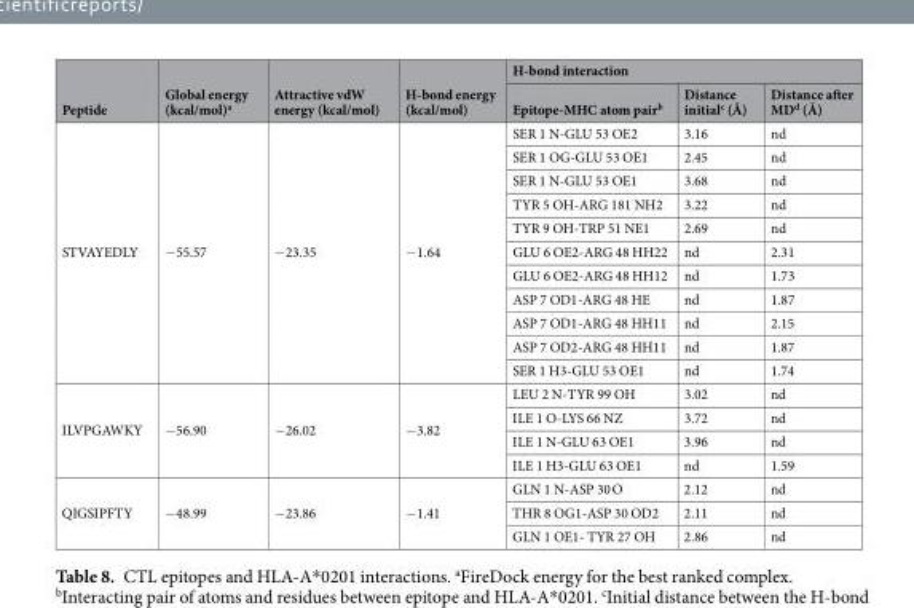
<table><thead><tr><td rowspan="2">Peptide</td><td rowspan="2">Global energy (kcal/mol)<sup>a</sup></td><td rowspan="2">Attractive vdW energy (kcal/mol)</td><td rowspan="2">H-bond energy (kcal/mol)</td><td colspan="3">H-bond interaction</td></tr><tr><td>Epitope-MHC atom pair<sup>b</sup></td><td>Distance initial<sup>c</sup> (Å)</td><td>Distance after MD<sup>d</sup> (Å)</td></tr></thead><tbody><tr><td rowspan="11">STVAYEDLY</td><td rowspan="11">−55.57</td><td rowspan="11">−23.35</td><td rowspan="11">−1.64</td><td>SER 1 N-GLU 53 OE2</td><td>3.16</td><td>nd</td></tr><tr><td>SER 1 OG-GLU 53 OE1</td><td>2.45</td><td>nd</td></tr><tr><td>SER 1 N-GLU 53 OE1</td><td>3.68</td><td>nd</td></tr><tr><td>TYR 5 OH-ARG 181 NH2</td><td>3.22</td><td>nd</td></tr><tr><td>TYR 9 OH-TRP 51 NE1</td><td>2.69</td><td>nd</td></tr><tr><td>GLU 6 OE2-ARG 48 HH22</td><td>nd</td><td>2.31</td></tr><tr><td>GLU 6 OE2-ARG 48 HH12</td><td>nd</td><td>1.73</td></tr><tr><td>ASP 7 OD1-ARG 48 HE</td><td>nd</td><td>1.87</td></tr><tr><td>ASP 7 OD1-ARG 48 HH11</td><td>nd</td><td>2.15</td></tr><tr><td>ASP 7 OD2-ARG 48 HH11</td><td>nd</td><td>1.87</td></tr><tr><td>SER 1 H3-GLU 53 OE1</td><td>nd</td><td>1.74</td></tr><tr><td rowspan="4">ILVPGAWKY</td><td rowspan="4">−56.90</td><td rowspan="4">−26.02</td><td rowspan="4">−3.82</td><td>LEU 2 N-TYR 99 OH</td><td>3.02</td><td>nd</td></tr><tr><td>ILE 1 O-LYS 66 NZ</td><td>3.72</td><td>nd</td></tr><tr><td>ILE 1 N-GLU 63 OE1</td><td>3.96</td><td>nd</td></tr><tr><td>ILE 1 H3-GLU 63 OE1</td><td>nd</td><td>1.59</td></tr><tr><td rowspan="3">QIGSIPFTY</td><td rowspan="3">−48.99</td><td rowspan="3">−23.86</td><td rowspan="3">−1.41</td><td>GLN 1 N-ASP 30 O</td><td>2.12</td><td>nd</td></tr><tr><td>THR 8 OG1-ASP 30 OD2</td><td>2.11</td><td>nd</td></tr><tr><td>GLN 1 OE1- TYR 27 OH</td><td>2.86</td><td>nd</td></tr></tbody></table>